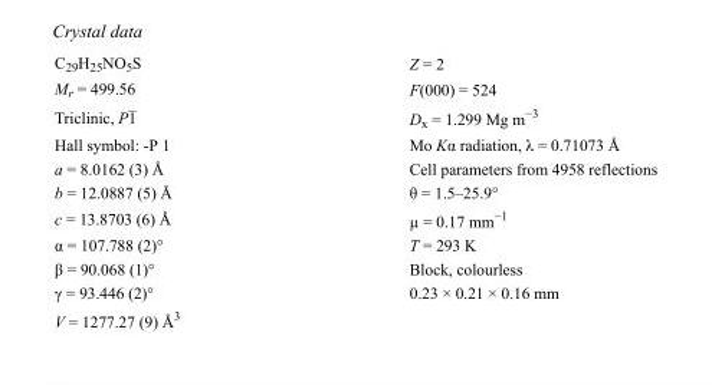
<table><tbody><tr><td>C<sub>29</sub>H<sub>25</sub>NO<sub>5</sub>S</td><td>Z = 2</td></tr><tr><td>M<sub>r</sub> = 499.56</td><td>F(000) = 524</td></tr><tr><td>Triclinic, P1</td><td>D<sub>x</sub> = 1.299 Mg m<sup>−3</sup></td></tr><tr><td>Hall symbol: -P 1</td><td>Mo Kα radiation, λ = 0.71073 Å</td></tr><tr><td>a = 8.0162 (3) Å</td><td>Cell parameters from 4958 reflections</td></tr><tr><td>b = 12.0887 (5) Å</td><td>θ = 1.5–25.9°</td></tr><tr><td>c = 13.8703 (6) Å</td><td>µ = 0.17 mm<sup>−1</sup></td></tr><tr><td>α = 107.788 (2)°</td><td>T = 293 K</td></tr><tr><td>β = 90.068 (1)°</td><td>Block, colourless</td></tr><tr><td>γ = 93.446 (2)°</td><td>0.23 × 0.21 × 0.16 mm</td></tr><tr><td>V = 1277.27 (9) Å<sup>3</sup></td><td></td></tr></tbody></table>